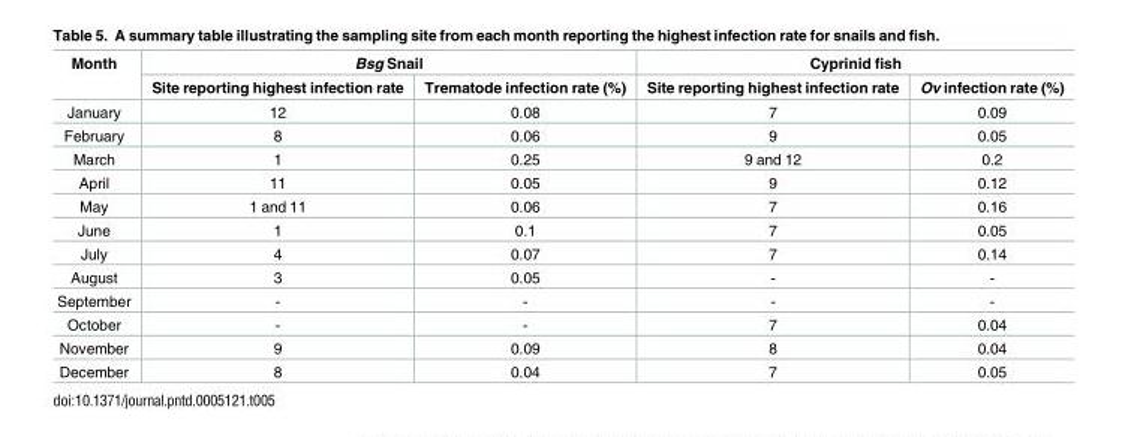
<table><thead><tr><td rowspan="2">Month</td><td colspan="2">Bsg Snail</td><td colspan="2">Cyprinid fish</td></tr><tr><td>Site reporting highest infection rate</td><td>Trematode infection rate (%)</td><td>Site reporting highest infection rate</td><td>Ov infection rate (%)</td></tr></thead><tbody><tr><td>January</td><td>12</td><td>0.08</td><td>7</td><td>0.09</td></tr><tr><td>February</td><td>8</td><td>0.06</td><td>9</td><td>0.05</td></tr><tr><td>March</td><td>1</td><td>0.25</td><td>9 and 12</td><td>0.2</td></tr><tr><td>April</td><td>11</td><td>0.05</td><td>9</td><td>0.12</td></tr><tr><td>May</td><td>1 and 11</td><td>0.06</td><td>7</td><td>0.16</td></tr><tr><td>June</td><td>1</td><td>0.1</td><td>7</td><td>0.05</td></tr><tr><td>July</td><td>4</td><td>0.07</td><td>7</td><td>0.14</td></tr><tr><td>August</td><td>3</td><td>0.05</td><td>-</td><td>-</td></tr><tr><td>September</td><td>-</td><td>-</td><td>-</td><td>-</td></tr><tr><td>October</td><td>-</td><td>-</td><td>7</td><td>0.04</td></tr><tr><td>November</td><td>9</td><td>0.09</td><td>8</td><td>0.04</td></tr><tr><td>December</td><td>8</td><td>0.04</td><td>7</td><td>0.05</td></tr></tbody></table>